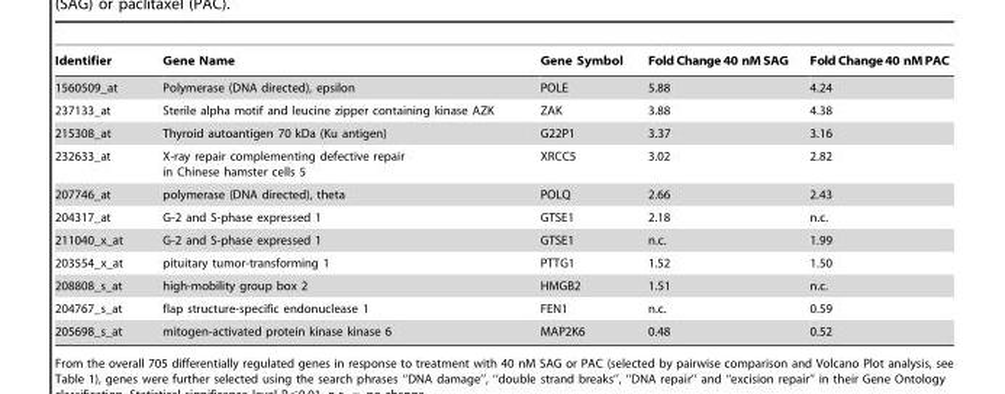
<table><thead><tr><td>Identifier</td><td>Gene Name</td><td>Gene Symbol</td><td>Fold Change 40 nM SAG</td><td>Fold Change 40 nM PAC</td></tr></thead><tbody><tr><td>1560509_at</td><td>Polymerase (DNA directed), epsilon</td><td>POLE</td><td>5.88</td><td>4.24</td></tr><tr><td>237133_at</td><td>Sterile alpha motif and leucine zipper containing kinase AZK</td><td>ZAK</td><td>3.88</td><td>4.38</td></tr><tr><td>215308_at</td><td>Thyroid autoantigen 70 kDa (Ku antigen)</td><td>G22P1</td><td>3.37</td><td>3.16</td></tr><tr><td>232633_at</td><td>X-ray repair complementing defective repair in Chinese hamster cells 5</td><td>XRCC5</td><td>3.02</td><td>2.82</td></tr><tr><td>207746_at</td><td>polymerase (DNA directed), theta</td><td>POLQ</td><td>2.66</td><td>2.43</td></tr><tr><td>204317_at</td><td>G-2 and S-phase expressed 1</td><td>GTSE1</td><td>2.18</td><td>n.c.</td></tr><tr><td>211040_x_at</td><td>G-2 and S-phase expressed 1</td><td>GTSE1</td><td>n.c.</td><td>1.99</td></tr><tr><td>203554_x_at</td><td>pituitary tumor-transforming 1</td><td>PTTG1</td><td>1.52</td><td>1.50</td></tr><tr><td>208808_s_at</td><td>high-mobility group box 2</td><td>HMGB2</td><td>1.51</td><td>n.c.</td></tr><tr><td>204767_s_at</td><td>flap structure-specific endonuclease 1</td><td>FEN1</td><td>n.c.</td><td>0.59</td></tr><tr><td>205698_s_at</td><td>mitogen-activated protein kinase kinase 6</td><td>MAP2K6</td><td>0.48</td><td>0.52</td></tr></tbody></table>